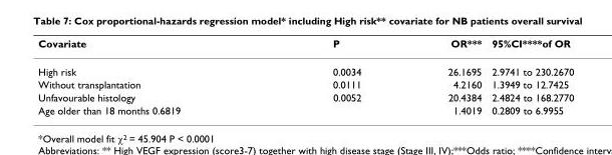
<table><thead><tr><td>Covariate</td><td>P</td><td>OR***</td><td>95%CI****of OR</td></tr></thead><tbody><tr><td>High risk</td><td>0.0034</td><td>26.1695</td><td>2.9741 to 230.2670</td></tr><tr><td>Without transplantation</td><td>0.0111</td><td>4.2160</td><td>1.3949 to 12.7425</td></tr><tr><td>Unfavourable histology</td><td>0.0052</td><td>20.4384</td><td>2.4824 to 168.2770</td></tr><tr><td>Age older than 18 months 0.6819</td><td></td><td>1.4019</td><td>0.2809 to 6.9955</td></tr></tbody></table>